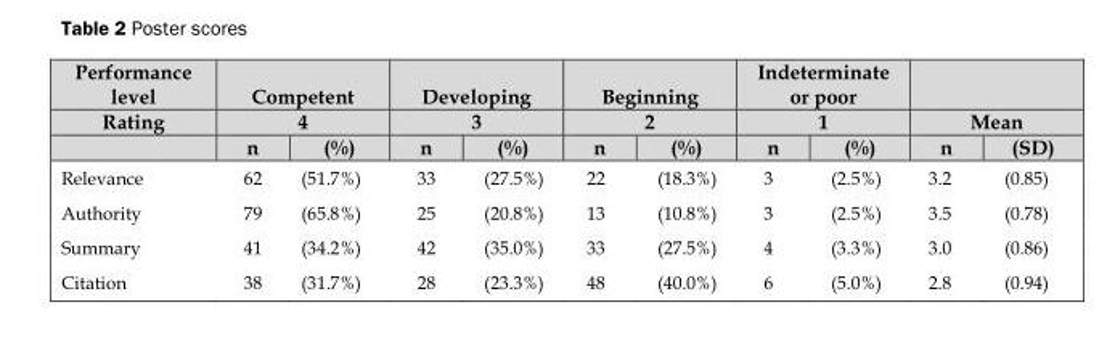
<table><thead><tr><td rowspan="3">Performance level Rating</td><td rowspan="2" colspan="2">Competent 4</td><td rowspan="2" colspan="2">Developing 3</td><td rowspan="2" colspan="2">Beginning 2</td><td rowspan="2" colspan="2">Indeterminate or poor 1</td><td></td><td></td></tr><tr><td colspan="2">Mean</td></tr><tr><td>n</td><td>(%)</td><td>n</td><td>(%)</td><td>n</td><td>(%)</td><td>n</td><td>(%)</td><td>n</td><td>(SD)</td></tr></thead><tbody><tr><td>Relevance</td><td>62</td><td>(51.7%)</td><td>33</td><td>(27.5%)</td><td>22</td><td>(18.3%)</td><td>3</td><td>(2.5%)</td><td>3.2</td><td>(0.85)</td></tr><tr><td>Authority</td><td>79</td><td>(65.8%)</td><td>25</td><td>(20.8%)</td><td>13</td><td>(10.8%)</td><td>3</td><td>(2.5%)</td><td>3.5</td><td>(0.78)</td></tr><tr><td>Summary</td><td>41</td><td>(34.2%)</td><td>42</td><td>(35.0%)</td><td>33</td><td>(27.5%)</td><td>4</td><td>(3.3%)</td><td>3.0</td><td>(0.86)</td></tr><tr><td>Citation</td><td>38</td><td>(31.7%)</td><td>28</td><td>(23.3%)</td><td>48</td><td>(40.0%)</td><td>6</td><td>(5.0%)</td><td>2.8</td><td>(0.94)</td></tr></tbody></table>